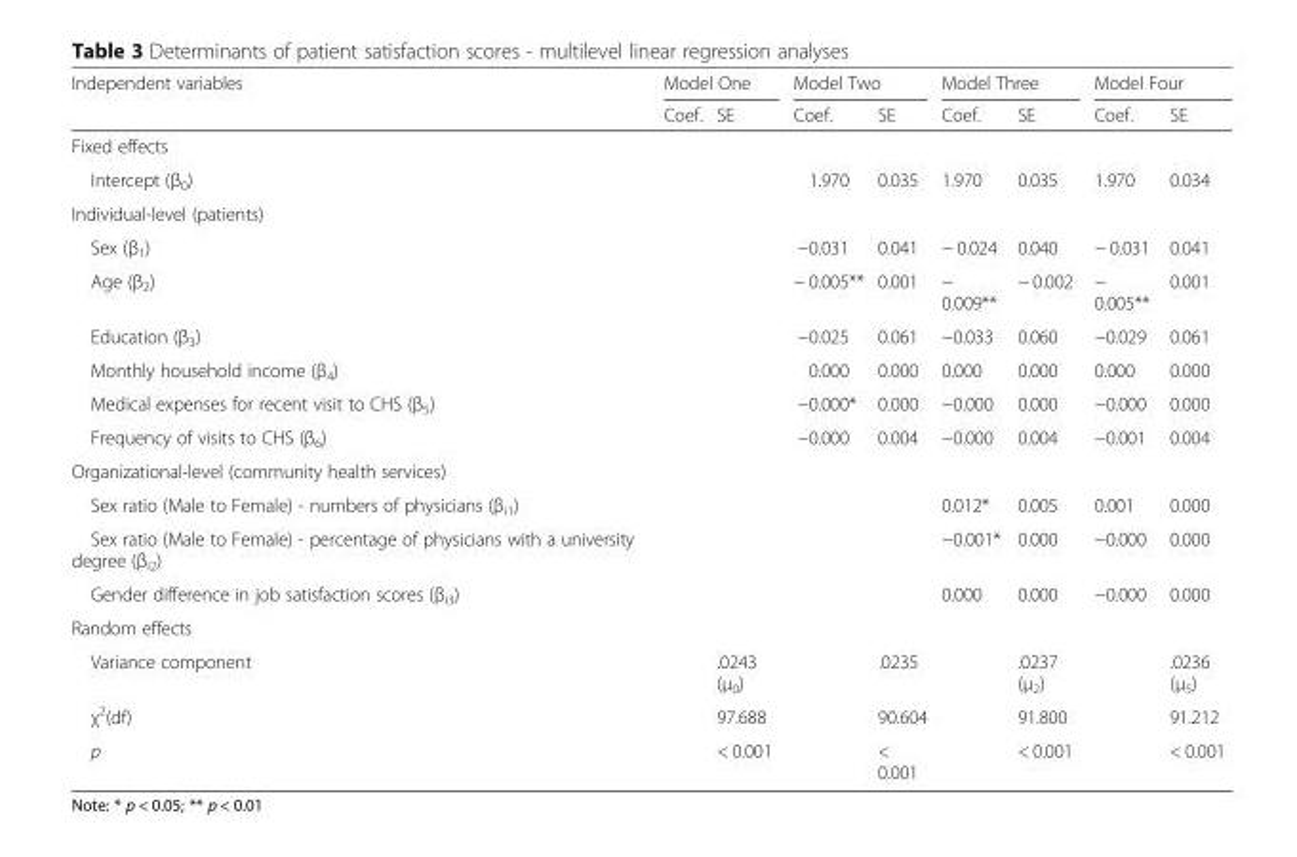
<table><thead><tr><td rowspan="2">Independent variables</td><td colspan="2">Model One</td><td colspan="2">Model Two</td><td colspan="2">Model Three</td><td colspan="2">Model Four</td></tr><tr><td>Coef.</td><td>SE</td><td>Coef.</td><td>SE</td><td>Coef.</td><td>SE</td><td>Coef.</td><td>SE</td></tr></thead><tbody><tr><td colspan="9">Fixed effects</td></tr><tr><td>Intercept (β<sub>0</sub>)</td><td></td><td></td><td>1.970</td><td>0.035</td><td>1.970</td><td>0.035</td><td>1.970</td><td>0.034</td></tr><tr><td colspan="9">Individual-level (patients)</td></tr><tr><td>Sex (β<sub>1</sub>)</td><td></td><td></td><td>−0.031</td><td>0.041</td><td>− 0.024</td><td>0.040</td><td>− 0.031</td><td>0.041</td></tr><tr><td>Age (β<sub>2</sub>)</td><td></td><td></td><td>− 0.005**</td><td>0.001</td><td>− 0.009**</td><td>− 0.002</td><td>− 0.005**</td><td>0.001</td></tr><tr><td>Education (β<sub>3</sub>)</td><td></td><td></td><td>−0.025</td><td>0.061</td><td>−0.033</td><td>0.060</td><td>−0.029</td><td>0.061</td></tr><tr><td>Monthly household income (β<sub>4</sub>)</td><td></td><td></td><td>0.000</td><td>0.000</td><td>0.000</td><td>0.000</td><td>0.000</td><td>0.000</td></tr><tr><td>Medical expenses for recent visit to CHS (β<sub>5</sub>)</td><td></td><td></td><td>−0.000*</td><td>0.000</td><td>−0.000</td><td>0.000</td><td>−0.000</td><td>0.000</td></tr><tr><td>Frequency of visits to CHS (β<sub>6</sub>)</td><td></td><td></td><td>−0.000</td><td>0.004</td><td>−0.000</td><td>0.004</td><td>−0.001</td><td>0.004</td></tr><tr><td colspan="9">Organizational-level (community health services)</td></tr><tr><td>Sex ratio (Male to Female) - numbers of physicians (β<sub>i1</sub>)</td><td></td><td></td><td></td><td></td><td>0.012*</td><td>0.005</td><td>0.001</td><td>0.000</td></tr><tr><td>Sex ratio (Male to Female) - percentage of physicians with a university degree (β<sub>i2</sub>)</td><td></td><td></td><td></td><td></td><td>−0.001*</td><td>0.000</td><td>−0.000</td><td>0.000</td></tr><tr><td>Gender difference in job satisfaction scores (β<sub>i3</sub>)</td><td></td><td></td><td></td><td></td><td>0.000</td><td>0.000</td><td>−0.000</td><td>0.000</td></tr><tr><td colspan="9">Random effects</td></tr><tr><td>Variance component</td><td></td><td>.0243 (μ<sub>0</sub>)</td><td></td><td>.0235</td><td></td><td>.0237 (μ<sub>2</sub>)</td><td></td><td>.0236 (μ<sub>5</sub>)</td></tr><tr><td>χ<sup>2</sup>(df)</td><td></td><td>97.688</td><td></td><td>90.604</td><td></td><td>91.800</td><td></td><td>91.212</td></tr><tr><td>p</td><td></td><td>&lt; 0.001</td><td></td><td>&lt; 0.001</td><td></td><td>&lt; 0.001</td><td></td><td>&lt; 0.001</td></tr></tbody></table>